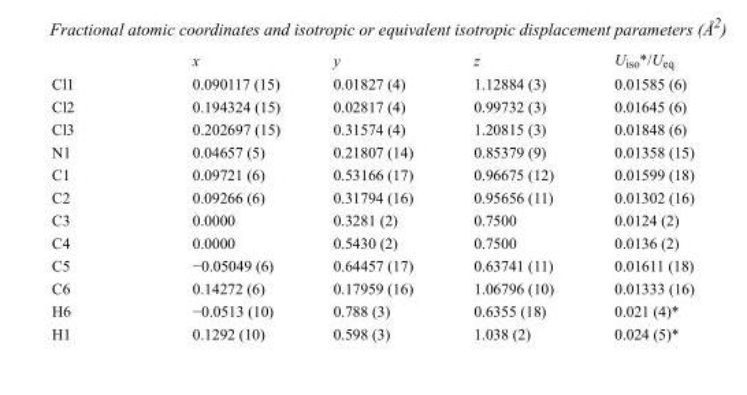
<table><thead><tr><td></td><td>x</td><td>y</td><td>z</td><td>U<sub>iso</sub>*/U<sub>eq</sub></td></tr></thead><tbody><tr><td>Cl1</td><td>0.090117 (15)</td><td>0.01827 (4)</td><td>1.12884 (3)</td><td>0.01585 (6)</td></tr><tr><td>Cl2</td><td>0.194324 (15)</td><td>0.02817 (4)</td><td>0.99732 (3)</td><td>0.01645 (6)</td></tr><tr><td>Cl3</td><td>0.202697 (15)</td><td>0.31574 (4)</td><td>1.20815 (3)</td><td>0.01848 (6)</td></tr><tr><td>N1</td><td>0.04657 (5)</td><td>0.21807 (14)</td><td>0.85379 (9)</td><td>0.01358 (15)</td></tr><tr><td>C1</td><td>0.09721 (6)</td><td>0.53166 (17)</td><td>0.96675 (12)</td><td>0.01599 (18)</td></tr><tr><td>C2</td><td>0.09266 (6)</td><td>0.31794 (16)</td><td>0.95656 (11)</td><td>0.01302 (16)</td></tr><tr><td>C3</td><td>0.0000</td><td>0.3281 (2)</td><td>0.7500</td><td>0.0124 (2)</td></tr><tr><td>C4</td><td>0.0000</td><td>0.5430 (2)</td><td>0.7500</td><td>0.0136 (2)</td></tr><tr><td>C5</td><td>−0.05049 (6)</td><td>0.64457 (17)</td><td>0.63741 (11)</td><td>0.01611 (18)</td></tr><tr><td>C6</td><td>0.14272 (6)</td><td>0.17959 (16)</td><td>1.06796 (10)</td><td>0.01333 (16)</td></tr><tr><td>H6</td><td>−0.0513 (10)</td><td>0.788 (3)</td><td>0.6355 (18)</td><td>0.021 (4)*</td></tr><tr><td>H1</td><td>0.1292 (10)</td><td>0.598 (3)</td><td>1.038 (2)</td><td>0.024 (5)*</td></tr></tbody></table>